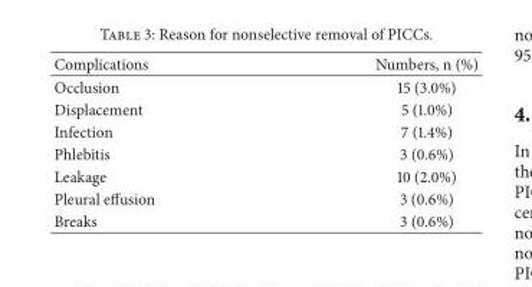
<table><thead><tr><td>Complications</td><td>Numbers, n (%)</td></tr></thead><tbody><tr><td>Occlusion</td><td>15 (3.0%)</td></tr><tr><td>Displacement</td><td>5 (1.0%)</td></tr><tr><td>Infection</td><td>7 (1.4%)</td></tr><tr><td>Phlebitis</td><td>3 (0.6%)</td></tr><tr><td>Leakage</td><td>10 (2.0%)</td></tr><tr><td>Pleural effusion</td><td>3 (0.6%)</td></tr><tr><td>Breaks</td><td>3 (0.6%)</td></tr></tbody></table>